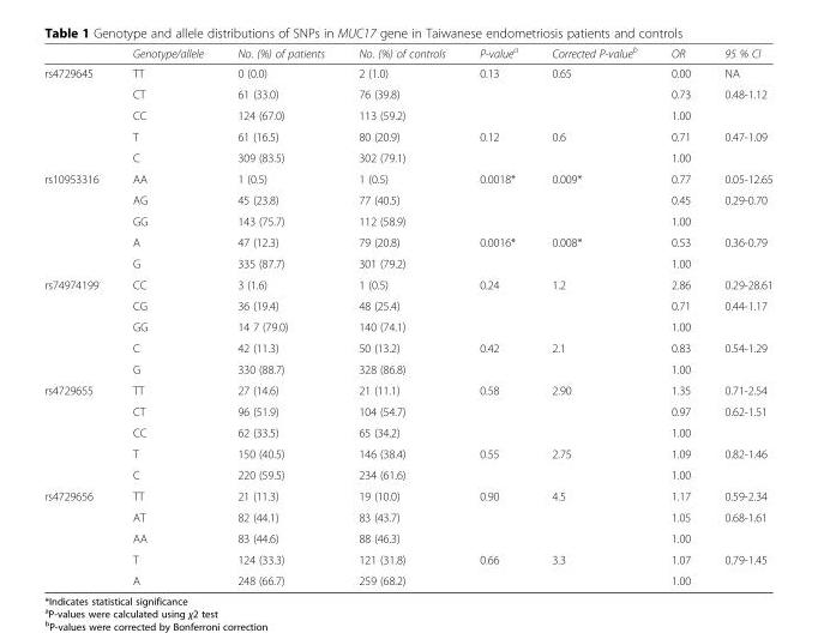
<table><thead><tr><td></td><td>Genotype/allele</td><td>No. (%) of patients</td><td>No. (%) of controls</td><td>P-value<sup>a</sup></td><td>Corrected P-value<sup>b</sup></td><td>OR</td><td>95 % CI</td></tr></thead><tbody><tr><td rowspan="5">rs4729645</td><td>TT</td><td>0 (0.0)</td><td>2 (1.0)</td><td>0.13</td><td>0.65</td><td>0.00</td><td>NA</td></tr><tr><td>CT</td><td>61 (33.0)</td><td>76 (39.8)</td><td></td><td></td><td>0.73</td><td>0.48-1.12</td></tr><tr><td>CC</td><td>124 (67.0)</td><td>113 (59.2)</td><td></td><td></td><td>1.00</td><td></td></tr><tr><td>T</td><td>61 (16.5)</td><td>80 (20.9)</td><td>0.12</td><td>0.6</td><td>0.71</td><td>0.47-1.09</td></tr><tr><td>C</td><td>309 (83.5)</td><td>302 (79.1)</td><td></td><td></td><td>1.00</td><td></td></tr><tr><td rowspan="5">rs10953316</td><td>AA</td><td>1 (0.5)</td><td>1 (0.5)</td><td>0.0018*</td><td>0.009*</td><td>0.77</td><td>0.05-12.65</td></tr><tr><td>AG</td><td>45 (23.8)</td><td>77 (40.5)</td><td></td><td></td><td>0.45</td><td>0.29-0.70</td></tr><tr><td>GG</td><td>143 (75.7)</td><td>112 (58.9)</td><td></td><td></td><td>1.00</td><td></td></tr><tr><td>A</td><td>47 (12.3)</td><td>79 (20.8)</td><td>0.0016*</td><td>0.008*</td><td>0.53</td><td>0.36-0.79</td></tr><tr><td>G</td><td>335 (87.7)</td><td>301 (79.2)</td><td></td><td></td><td>1.00</td><td></td></tr><tr><td rowspan="5">rs74974199</td><td>CC</td><td>3 (1.6)</td><td>1 (0.5)</td><td>0.24</td><td>1.2</td><td>2.86</td><td>0.29-28.61</td></tr><tr><td>CG</td><td>36 (19.4)</td><td>48 (25.4)</td><td></td><td></td><td>0.71</td><td>0.44-1.17</td></tr><tr><td>GG</td><td>14 7 (79.0)</td><td>140 (74.1)</td><td></td><td></td><td>1.00</td><td></td></tr><tr><td>C</td><td>42 (11.3)</td><td>50 (13.2)</td><td>0.42</td><td>2.1</td><td>0.83</td><td>0.54-1.29</td></tr><tr><td>G</td><td>330 (88.7)</td><td>328 (86.8)</td><td></td><td></td><td>1.00</td><td></td></tr><tr><td rowspan="5">rs4729655</td><td>TT</td><td>27 (14.6)</td><td>21 (11.1)</td><td>0.58</td><td>2.90</td><td>1.35</td><td>0.71-2.54</td></tr><tr><td>CT</td><td>96 (51.9)</td><td>104 (54.7)</td><td></td><td></td><td>0.97</td><td>0.62-1.51</td></tr><tr><td>CC</td><td>62 (33.5)</td><td>65 (34.2)</td><td></td><td></td><td>1.00</td><td></td></tr><tr><td>T</td><td>150 (40.5)</td><td>146 (38.4)</td><td>0.55</td><td>2.75</td><td>1.09</td><td>0.82-1.46</td></tr><tr><td>C</td><td>220 (59.5)</td><td>234 (61.6)</td><td></td><td></td><td>1.00</td><td></td></tr><tr><td rowspan="5">rs4729656</td><td>TT</td><td>21 (11.3)</td><td>19 (10.0)</td><td>0.90</td><td>4.5</td><td>1.17</td><td>0.59-2.34</td></tr><tr><td>AT</td><td>82 (44.1)</td><td>83 (43.7)</td><td></td><td></td><td>1.05</td><td>0.68-1.61</td></tr><tr><td>AA</td><td>83 (44.6)</td><td>88 (46.3)</td><td></td><td></td><td>1.00</td><td></td></tr><tr><td>T</td><td>124 (33.3)</td><td>121 (31.8)</td><td>0.66</td><td>3.3</td><td>1.07</td><td>0.79-1.45</td></tr><tr><td>A</td><td>248 (66.7)</td><td>259 (68.2)</td><td></td><td></td><td>1.00</td><td></td></tr></tbody></table>